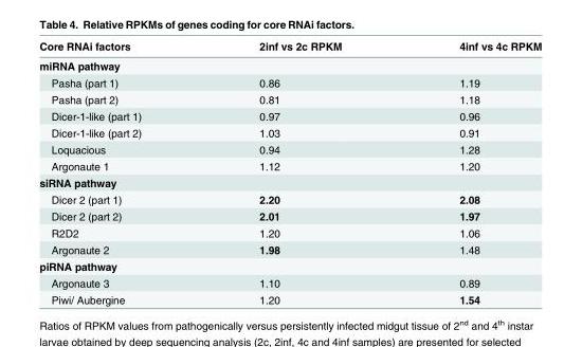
<table><thead><tr><td>Core RNAi factors</td><td>2inf vs 2c RPKM</td><td>4inf vs 4c RPKM</td></tr></thead><tbody><tr><td colspan="3">miRNA pathway</td></tr><tr><td>Pasha (part 1)</td><td>0.86</td><td>1.19</td></tr><tr><td>Pasha (part 2)</td><td>0.81</td><td>1.18</td></tr><tr><td>Dicer-1-like (part 1)</td><td>0.97</td><td>0.96</td></tr><tr><td>Dicer-1-like (part 2)</td><td>1.03</td><td>0.91</td></tr><tr><td>Loquacious</td><td>0.94</td><td>1.28</td></tr><tr><td>Argonaute 1</td><td>1.12</td><td>1.20</td></tr><tr><td colspan="3">siRNA pathway</td></tr><tr><td>Dicer 2 (part 1)</td><td>2.20</td><td>2.08</td></tr><tr><td>Dicer 2 (part 2)</td><td>2.01</td><td>1.97</td></tr><tr><td>R2D2</td><td>1.20</td><td>1.06</td></tr><tr><td>Argonaute 2</td><td>1.98</td><td>1.48</td></tr><tr><td colspan="3">piRNA pathway</td></tr><tr><td>Argonaute 3</td><td>1.10</td><td>0.89</td></tr><tr><td>Piwi/ Aubergine</td><td>1.20</td><td>1.54</td></tr></tbody></table>